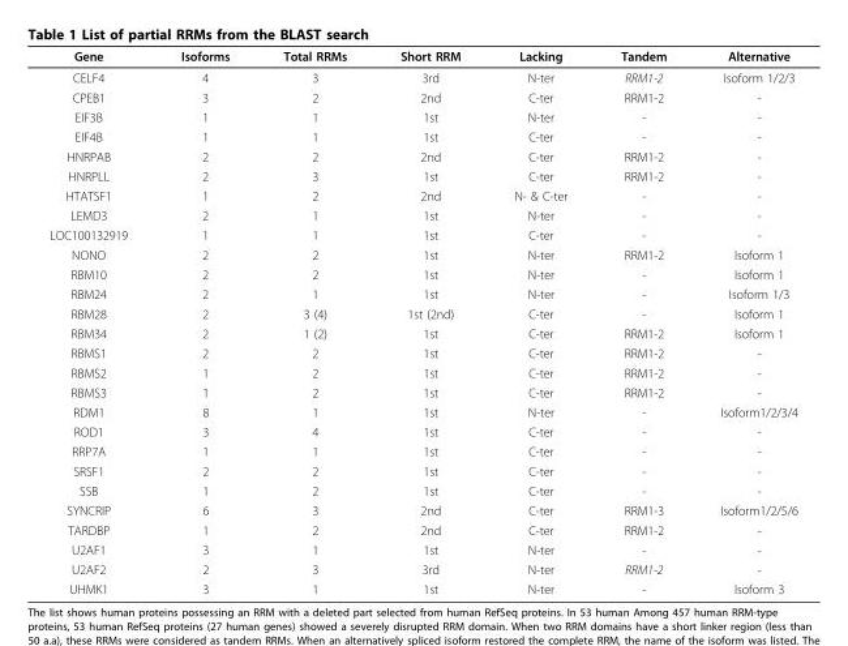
<table><thead><tr><td>Gene</td><td>Isoforms</td><td>Total RRMs</td><td>Short RRM</td><td>Lacking</td><td>Tandem</td><td>Alternative</td></tr></thead><tbody><tr><td>CELF4</td><td>4</td><td>3</td><td>3rd</td><td>N-ter</td><td>RRM1-2</td><td>Isoform 1/2/3</td></tr><tr><td>CPEB1</td><td>3</td><td>2</td><td>2nd</td><td>C-ter</td><td>RRM1-2</td><td>-</td></tr><tr><td>EIF3B</td><td>1</td><td>1</td><td>1st</td><td>N-ter</td><td>-</td><td>-</td></tr><tr><td>EIF4B</td><td>1</td><td>1</td><td>1st</td><td>C-ter</td><td>-</td><td>-</td></tr><tr><td>HNRPAB</td><td>2</td><td>2</td><td>2nd</td><td>C-ter</td><td>RRM1-2</td><td>-</td></tr><tr><td>HNRPLL</td><td>2</td><td>3</td><td>1st</td><td>C-ter</td><td>RRM1-2</td><td>-</td></tr><tr><td>HTATSF1</td><td>1</td><td>2</td><td>2nd</td><td>N- &amp; C-ter</td><td>-</td><td>-</td></tr><tr><td>LEMD3</td><td>2</td><td>1</td><td>1st</td><td>N-ter</td><td>-</td><td>-</td></tr><tr><td>LOC100132919</td><td>1</td><td>1</td><td>1st</td><td>C-ter</td><td>-</td><td>-</td></tr><tr><td>NONO</td><td>2</td><td>2</td><td>1st</td><td>N-ter</td><td>RRM1-2</td><td>Isoform 1</td></tr><tr><td>RBM10</td><td>2</td><td>2</td><td>1st</td><td>N-ter</td><td>-</td><td>Isoform 1</td></tr><tr><td>RBM24</td><td>2</td><td>1</td><td>1st</td><td>N-ter</td><td>-</td><td>Isoform 1/3</td></tr><tr><td>RBM28</td><td>2</td><td>3 (4)</td><td>1st (2nd)</td><td>C-ter</td><td>-</td><td>Isoform 1</td></tr><tr><td>RBM34</td><td>2</td><td>1 (2)</td><td>1st</td><td>C-ter</td><td>RRM1-2</td><td>Isoform 1</td></tr><tr><td>RBMS1</td><td>2</td><td>2</td><td>1st</td><td>C-ter</td><td>RRM1-2</td><td>-</td></tr><tr><td>RBMS2</td><td>1</td><td>2</td><td>1st</td><td>C-ter</td><td>RRM1-2</td><td>-</td></tr><tr><td>RBMS3</td><td>1</td><td>2</td><td>1st</td><td>C-ter</td><td>RRM1-2</td><td>-</td></tr><tr><td>RDM1</td><td>8</td><td>1</td><td>1st</td><td>N-ter</td><td>-</td><td>Isoform1/2/3/4</td></tr><tr><td>ROD1</td><td>3</td><td>4</td><td>1st</td><td>C-ter</td><td>-</td><td>-</td></tr><tr><td>RRP7A</td><td>1</td><td>1</td><td>1st</td><td>C-ter</td><td>-</td><td>-</td></tr><tr><td>SRSF1</td><td>2</td><td>2</td><td>1st</td><td>C-ter</td><td>-</td><td>-</td></tr><tr><td>SSB</td><td>1</td><td>2</td><td>1st</td><td>C-ter</td><td>-</td><td>-</td></tr><tr><td>SYNCRIP</td><td>6</td><td>3</td><td>2nd</td><td>C-ter</td><td>RRM1-3</td><td>Isoform1/2/5/6</td></tr><tr><td>TARDBP</td><td>1</td><td>2</td><td>2nd</td><td>C-ter</td><td>RRM1-2</td><td>-</td></tr><tr><td>U2AF1</td><td>3</td><td>1</td><td>1st</td><td>N-ter</td><td>-</td><td>-</td></tr><tr><td>U2AF2</td><td>2</td><td>3</td><td>3rd</td><td>N-ter</td><td>RRM1-2</td><td>-</td></tr><tr><td>UHMK1</td><td>3</td><td>1</td><td>1st</td><td>N-ter</td><td>-</td><td>Isoform 3</td></tr></tbody></table>